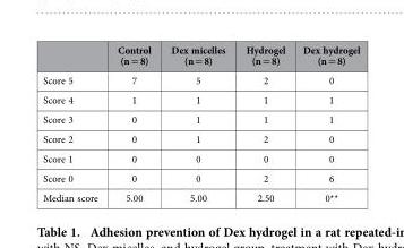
<table><thead><tr><td></td><td>Control (n = 8)</td><td>Dex micelles (n = 8)</td><td>Hydrogel (n = 8)</td><td>Dex hydrogel (n = 8)</td></tr></thead><tbody><tr><td>Score 5</td><td>7</td><td>5</td><td>2</td><td>0</td></tr><tr><td>Score 4</td><td>1</td><td>1</td><td>1</td><td>1</td></tr><tr><td>Score 3</td><td>0</td><td>1</td><td>1</td><td>1</td></tr><tr><td>Score 2</td><td>0</td><td>1</td><td>2</td><td>0</td></tr><tr><td>Score 1</td><td>0</td><td>0</td><td>0</td><td>0</td></tr><tr><td>Score 0</td><td>0</td><td>0</td><td>2</td><td>6</td></tr><tr><td>Median score</td><td>5.00</td><td>5.00</td><td>2.50</td><td>0**</td></tr></tbody></table>